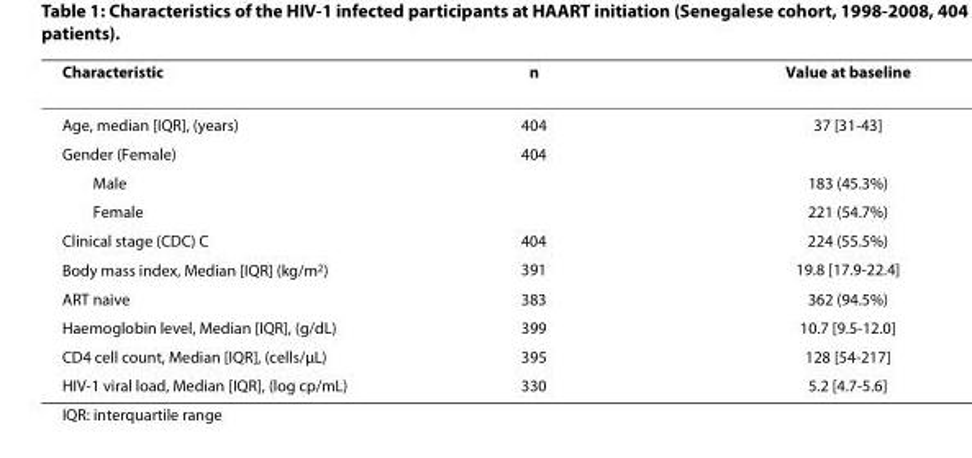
<table><thead><tr><td>Characteristic</td><td>n</td><td>Value at baseline</td></tr></thead><tbody><tr><td>Age, median [IQR], (years)</td><td>404</td><td>37 [31-43]</td></tr><tr><td>Gender (Female)</td><td>404</td><td></td></tr><tr><td>Male</td><td></td><td>183 (45.3%)</td></tr><tr><td>Female</td><td></td><td>221 (54.7%)</td></tr><tr><td>Clinical stage (CDC) C</td><td>404</td><td>224 (55.5%)</td></tr><tr><td>Body mass index, Median [IQR] (kg/m<sup>2</sup>)</td><td>391</td><td>19.8 [17.9-22.4]</td></tr><tr><td>ART naive</td><td>383</td><td>362 (94.5%)</td></tr><tr><td>Haemoglobin level, Median [IQR], (g/dL)</td><td>399</td><td>10.7 [9.5-12.0]</td></tr><tr><td>CD4 cell count, Median [IQR], (cells/μL)</td><td>395</td><td>128 [54-217]</td></tr><tr><td>HIV-1 viral load, Median [IQR], (log cp/mL)</td><td>330</td><td>5.2 [4.7-5.6]</td></tr></tbody></table>